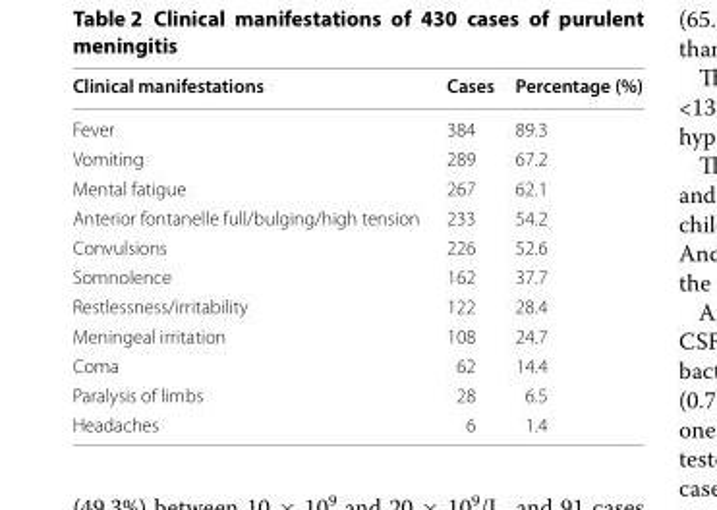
<table><thead><tr><td>Clinical manifestations</td><td>Cases</td><td>Percentage (%)</td></tr></thead><tbody><tr><td>Fever</td><td>384</td><td>89.3</td></tr><tr><td>Vomiting</td><td>289</td><td>67.2</td></tr><tr><td>Mental fatigue</td><td>267</td><td>62.1</td></tr><tr><td>Anterior fontanelle full/bulging/high tension</td><td>233</td><td>54.2</td></tr><tr><td>Convulsions</td><td>226</td><td>52.6</td></tr><tr><td>Somnolence</td><td>162</td><td>37.7</td></tr><tr><td>Restlessness/irritability</td><td>122</td><td>28.4</td></tr><tr><td>Meningeal irritation</td><td>108</td><td>24.7</td></tr><tr><td>Coma</td><td>62</td><td>14.4</td></tr><tr><td>Paralysis of limbs</td><td>28</td><td>6.5</td></tr><tr><td>Headaches</td><td>6</td><td>1.4</td></tr></tbody></table>